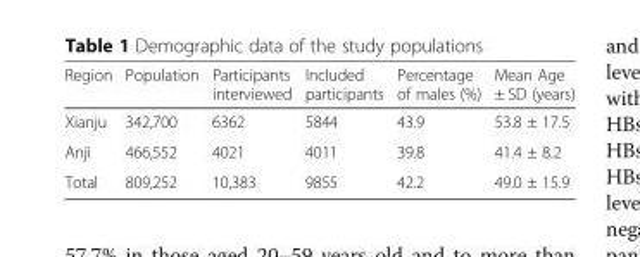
<table><thead><tr><td>Region</td><td>Population</td><td>Participants interviewed</td><td>Included participants</td><td>Percentage of males (%)</td><td>Mean Age ± SD (years)</td></tr></thead><tbody><tr><td>Xianju</td><td>342,700</td><td>6362</td><td>5844</td><td>43.9</td><td>53.8 ± 17.5</td></tr><tr><td>Anji</td><td>466,552</td><td>4021</td><td>4011</td><td>39.8</td><td>41.4 ± 8.2</td></tr><tr><td>Total</td><td>809,252</td><td>10,383</td><td>9855</td><td>42.2</td><td>49.0 ± 15.9</td></tr></tbody></table>